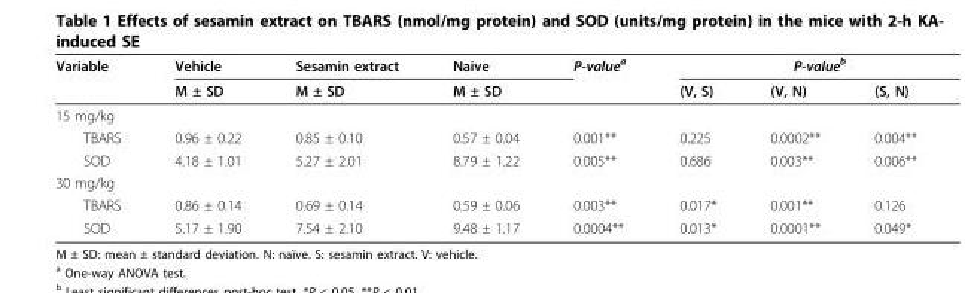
<table><thead><tr><td rowspan="2">Variable</td><td rowspan="2">Vehicle M ± SD</td><td rowspan="2">Sesamin extract M ± SD</td><td rowspan="2">Naive M ± SD</td><td rowspan="2">P-value<sup>a</sup></td><td colspan="3">P-value<sup>b</sup></td></tr><tr><td>(V, S)</td><td>(V, N)</td><td>(S, N)</td></tr></thead><tbody><tr><td colspan="8">15 mg/kg</td></tr><tr><td>TBARS</td><td>0.96 ± 0.22</td><td>0.85 ± 0.10</td><td>0.57 ± 0.04</td><td>0.001**</td><td>0.225</td><td>0.0002**</td><td>0.004**</td></tr><tr><td>SOD</td><td>4.18 ± 1.01</td><td>5.27 ± 2.01</td><td>8.79 ± 1.22</td><td>0.005**</td><td>0.686</td><td>0.003**</td><td>0.006**</td></tr><tr><td colspan="8">30 mg/kg</td></tr><tr><td>TBARS</td><td>0.86 ± 0.14</td><td>0.69 ± 0.14</td><td>0.59 ± 0.06</td><td>0.003**</td><td>0.017*</td><td>0.001**</td><td>0.126</td></tr><tr><td>SOD</td><td>5.17 ± 1.90</td><td>7.54 ± 2.10</td><td>9.48 ± 1.17</td><td>0.0004**</td><td>0.013*</td><td>0.0001**</td><td>0.049*</td></tr></tbody></table>